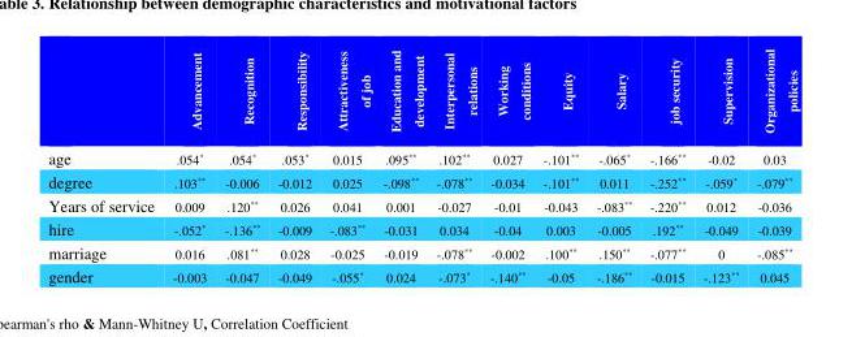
<table><thead><tr><td></td><td>Advancement</td><td>Recognition</td><td>Responsibility</td><td>Attractiveness of job</td><td>Education and development</td><td>Interpersonal relations</td><td>Working conditions</td><td>Equity</td><td>Salary</td><td>job security</td><td>Supervision</td><td>Organizational policies</td></tr></thead><tbody><tr><td>age</td><td>.054*</td><td>.054*</td><td>.053*</td><td>0.015</td><td>.095**</td><td>.102**</td><td>0.027</td><td>-.101**</td><td>-.065*</td><td>-.166**</td><td>-0.02</td><td>0.03</td></tr><tr><td>degree</td><td>.103**</td><td>-0.006</td><td>-0.012</td><td>0.025</td><td>-.098**</td><td>-.078**</td><td>-0.034</td><td>-.101**</td><td>0.011</td><td>-.252**</td><td>-.059*</td><td>-.079**</td></tr><tr><td>Years of service</td><td>0.009</td><td>.120**</td><td>0.026</td><td>0.041</td><td>0.001</td><td>-0.027</td><td>-0.01</td><td>-0.043</td><td>-.083**</td><td>-.220**</td><td>0.012</td><td>-0.036</td></tr><tr><td>hire</td><td>-.052*</td><td>-.136**</td><td>-0.009</td><td>-.083**</td><td>-0.031</td><td>0.034</td><td>-0.04</td><td>0.003</td><td>-0.005</td><td>.192**</td><td>-0.049</td><td>-0.039</td></tr><tr><td>marriage</td><td>0.016</td><td>.081**</td><td>0.028</td><td>-0.025</td><td>-0.019</td><td>-.078**</td><td>-0.002</td><td>.100**</td><td>.150**</td><td>-.077**</td><td>0</td><td>-.085**</td></tr><tr><td>gender</td><td>-0.003</td><td>-0.047</td><td>-0.049</td><td>-.055*</td><td>0.024</td><td>-.073*</td><td>-.140**</td><td>-0.05</td><td>-.186**</td><td>-0.015</td><td>-.123**</td><td>0.045</td></tr></tbody></table>